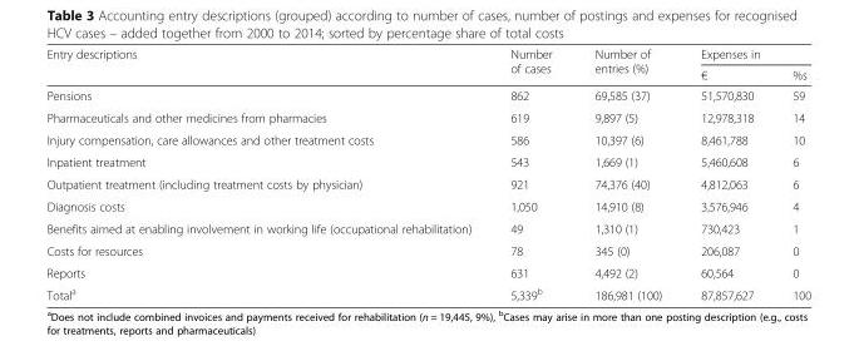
<table><thead><tr><td rowspan="2">Entry descriptions</td><td rowspan="2">Number of cases</td><td rowspan="2">Number of entries (%)</td><td colspan="2">Expenses in</td></tr><tr><td>€</td><td>%s</td></tr></thead><tbody><tr><td>Pensions</td><td>862</td><td>69,585 (37)</td><td>51,570,830</td><td>59</td></tr><tr><td>Pharmaceuticals and other medicines from pharmacies</td><td>619</td><td>9,897 (5)</td><td>12,978,318</td><td>14</td></tr><tr><td>Injury compensation, care allowances and other treatment costs</td><td>586</td><td>10,397 (6)</td><td>8,461,788</td><td>10</td></tr><tr><td>Inpatient treatment</td><td>543</td><td>1,669 (1)</td><td>5,460,608</td><td>6</td></tr><tr><td>Outpatient treatment (including treatment costs by physician)</td><td>921</td><td>74,376 (40)</td><td>4,812,063</td><td>6</td></tr><tr><td>Diagnosis costs</td><td>1,050</td><td>14,910 (8)</td><td>3,576,946</td><td>4</td></tr><tr><td>Benefits aimed at enabling involvement in working life (occupational rehabilitation)</td><td>49</td><td>1,310 (1)</td><td>730,423</td><td>1</td></tr><tr><td>Costs for resources</td><td>78</td><td>345 (0)</td><td>206,087</td><td>0</td></tr><tr><td>Reports</td><td>631</td><td>4,492 (2)</td><td>60,564</td><td>0</td></tr><tr><td>Total<sup>a</sup></td><td>5,339<sup>b</sup></td><td>186,981 (100)</td><td>87,857,627</td><td>100</td></tr></tbody></table>